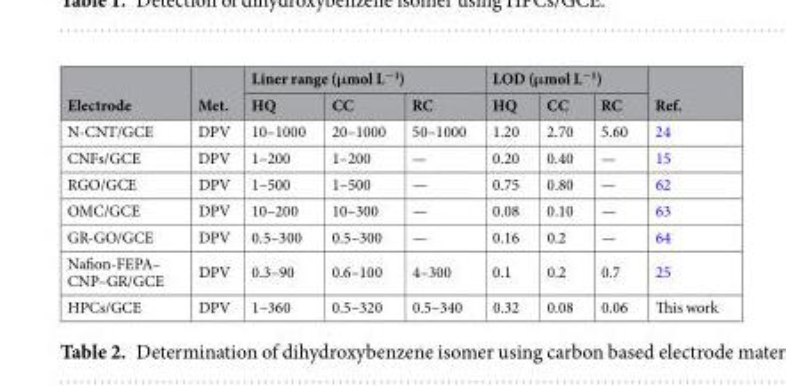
<table><thead><tr><td rowspan="2">Electrode</td><td rowspan="2">Met.</td><td colspan="3">Liner range (μmol L<sup>−1</sup>)</td><td colspan="3">LOD (μmol L<sup>−1</sup>)</td><td rowspan="2">Ref.</td></tr><tr><td>HQ</td><td>CC</td><td>RC</td><td>HQ</td><td>CC</td><td>RC</td></tr></thead><tbody><tr><td>N-CNT/GCE</td><td>DPV</td><td>10–1000</td><td>20–1000</td><td>50–1000</td><td>1.20</td><td>2.70</td><td>5.60</td><td>24</td></tr><tr><td>CNFs/GCE</td><td>DPV</td><td>1–200</td><td>1–200</td><td>—</td><td>0.20</td><td>0.40</td><td>—</td><td>15</td></tr><tr><td>RGO/GCE</td><td>DPV</td><td>1–500</td><td>1–500</td><td>—</td><td>0.75</td><td>0.80</td><td>—</td><td>62</td></tr><tr><td>OMC/GCE</td><td>DPV</td><td>10–200</td><td>10–300</td><td>—</td><td>0.08</td><td>0.10</td><td>—</td><td>63</td></tr><tr><td>GR-GO/GCE</td><td>DPV</td><td>0.5–300</td><td>0.5–300</td><td>—</td><td>0.16</td><td>0.2</td><td>—</td><td>64</td></tr><tr><td>Nafion-FEPA– CNP–GR/GCE</td><td>DPV</td><td>0.3–90</td><td>0.6–100</td><td>4–300</td><td>0.1</td><td>0.2</td><td>0.7</td><td>25</td></tr><tr><td>HPCs/GCE</td><td>DPV</td><td>1–360</td><td>0.5–320</td><td>0.5–340</td><td>0.32</td><td>0.08</td><td>0.06</td><td>This work</td></tr></tbody></table>